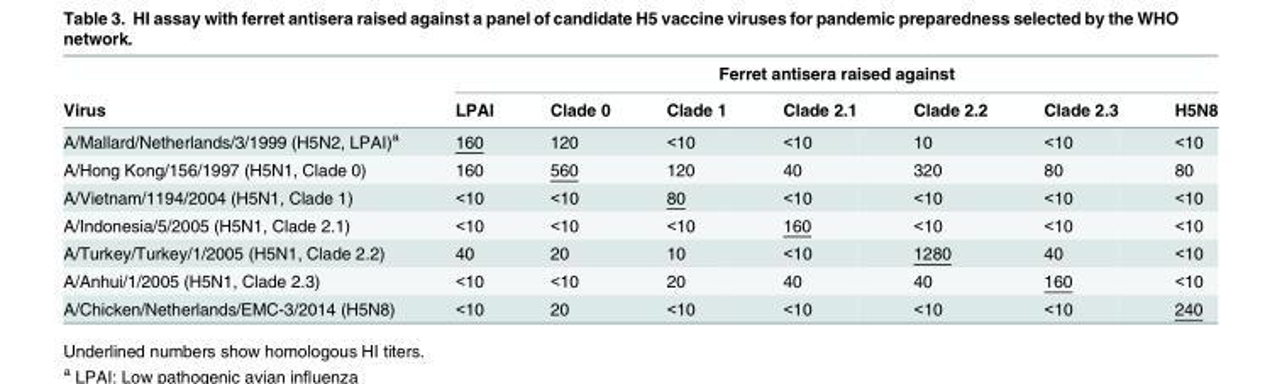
<table><thead><tr><td rowspan="2">Virus</td><td colspan="7">Ferret antisera raised against</td></tr><tr><td>LPAI</td><td>Clade 0</td><td>Clade 1</td><td>Clade 2.1</td><td>Clade 2.2</td><td>Clade 2.3</td><td>H5N8</td></tr></thead><tbody><tr><td>A/Mallard/Netherlands/3/1999 (H5N2, LPAI)<sup>a</sup></td><td>160</td><td>120</td><td>&lt;10</td><td>&lt;10</td><td>10</td><td>&lt;10</td><td>&lt;10</td></tr><tr><td>A/Hong Kong/156/1997 (H5N1, Clade 0)</td><td>160</td><td>560</td><td>120</td><td>40</td><td>320</td><td>80</td><td>80</td></tr><tr><td>A/Vietnam/1194/2004 (H5N1, Clade 1)</td><td>&lt;10</td><td>&lt;10</td><td>80</td><td>&lt;10</td><td>&lt;10</td><td>&lt;10</td><td>&lt;10</td></tr><tr><td>A/Indonesia/5/2005 (H5N1, Clade 2.1)</td><td>&lt;10</td><td>&lt;10</td><td>&lt;10</td><td>160</td><td>&lt;10</td><td>&lt;10</td><td>&lt;10</td></tr><tr><td>A/Turkey/Turkey/1/2005 (H5N1, Clade 2.2)</td><td>40</td><td>20</td><td>10</td><td>&lt;10</td><td>1280</td><td>40</td><td>&lt;10</td></tr><tr><td>A/Anhui/1/2005 (H5N1, Clade 2.3)</td><td>&lt;10</td><td>&lt;10</td><td>20</td><td>40</td><td>40</td><td>160</td><td>&lt;10</td></tr><tr><td>A/Chicken/Netherlands/EMC-3/2014 (H5N8)</td><td>&lt;10</td><td>20</td><td>&lt;10</td><td>&lt;10</td><td>&lt;10</td><td>&lt;10</td><td>240</td></tr></tbody></table>